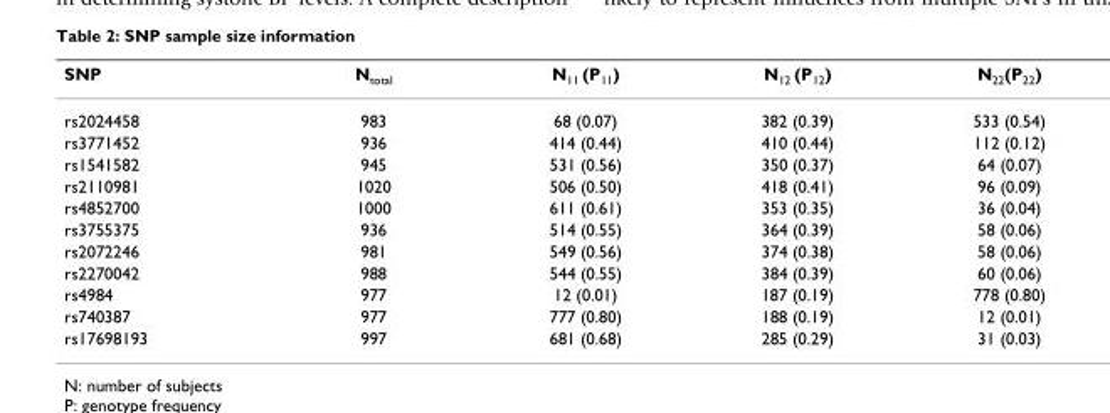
<table><thead><tr><td>SNP</td><td>N<sub>total</sub></td><td>N<sub>11</sub> (P<sub>11</sub>)</td><td>N<sub>12</sub> (P<sub>12</sub>)</td><td>N<sub>22</sub>(P<sub>22</sub>)</td></tr></thead><tbody><tr><td>rs2024458</td><td>983</td><td>68 (0.07)</td><td>382 (0.39)</td><td>533 (0.54)</td></tr><tr><td>rs3771452</td><td>936</td><td>414 (0.44)</td><td>410 (0.44)</td><td>112 (0.12)</td></tr><tr><td>rs1541582</td><td>945</td><td>531 (0.56)</td><td>350 (0.37)</td><td>64 (0.07)</td></tr><tr><td>rs2110981</td><td>1020</td><td>506 (0.50)</td><td>418 (0.41)</td><td>96 (0.09)</td></tr><tr><td>rs4852700</td><td>1000</td><td>611 (0.61)</td><td>353 (0.35)</td><td>36 (0.04)</td></tr><tr><td>rs3755375</td><td>936</td><td>514 (0.55)</td><td>364 (0.39)</td><td>58 (0.06)</td></tr><tr><td>rs2072246</td><td>981</td><td>549 (0.56)</td><td>374 (0.38)</td><td>58 (0.06)</td></tr><tr><td>rs2270042</td><td>988</td><td>544 (0.55)</td><td>384 (0.39)</td><td>60 (0.06)</td></tr><tr><td>rs4984</td><td>977</td><td>12 (0.01)</td><td>187 (0.19)</td><td>778 (0.80)</td></tr><tr><td>rs740387</td><td>977</td><td>777 (0.80)</td><td>188 (0.19)</td><td>12 (0.01)</td></tr><tr><td>rs17698193</td><td>997</td><td>681 (0.68)</td><td>285 (0.29)</td><td>31 (0.03)</td></tr></tbody></table>